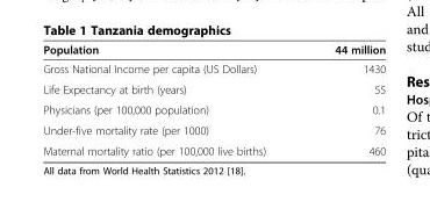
<table><thead><tr><td>Population</td><td>44 million</td></tr></thead><tbody><tr><td>Gross National Income per capita (US Dollars)</td><td>1430</td></tr><tr><td>Life Expectancy at birth (years)</td><td>55</td></tr><tr><td>Physicians (per 100,000 population)</td><td>0.1</td></tr><tr><td>Under-five mortality rate (per 1000)</td><td>76</td></tr><tr><td>Maternal mortality ratio (per 100,000 live births)</td><td>460</td></tr></tbody></table>